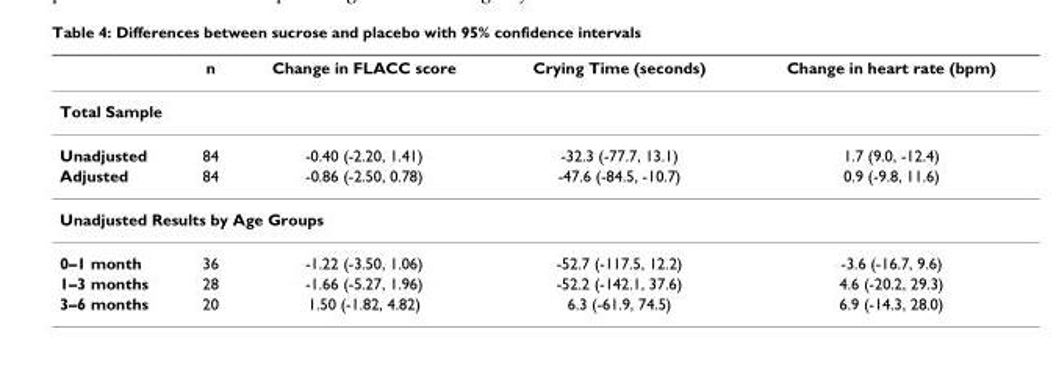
<table><thead><tr><td></td><td>n</td><td>Change in FLACC score</td><td>Crying Time (seconds)</td><td>Change in heart rate (bpm)</td></tr></thead><tbody><tr><td colspan="5">Total Sample</td></tr><tr><td>Unadjusted</td><td>84</td><td>-0.40 (-2.20, 1.41)</td><td>-32.3 (-77.7, 13.1)</td><td>1.7 (9.0, -12.4)</td></tr><tr><td>Adjusted</td><td>84</td><td>-0.86 (-2.50, 0.78)</td><td>-47.6 (-84.5, -10.7)</td><td>0.9 (-9.8, 11.6)</td></tr><tr><td colspan="5">Unadjusted Results by Age Groups</td></tr><tr><td>0–1 month</td><td>36</td><td>-1.22 (-3.50, 1.06)</td><td>-52.7 (-117.5, 12.2)</td><td>-3.6 (-16.7, 9.6)</td></tr><tr><td>1–3 months</td><td>28</td><td>-1.66 (-5.27, 1.96)</td><td>-52.2 (-142.1, 37.6)</td><td>4.6 (-20.2, 29.3)</td></tr><tr><td>3–6 months</td><td>20</td><td>1.50 (-1.82, 4.82)</td><td>6.3 (-61.9, 74.5)</td><td>6.9 (-14.3, 28.0)</td></tr></tbody></table>